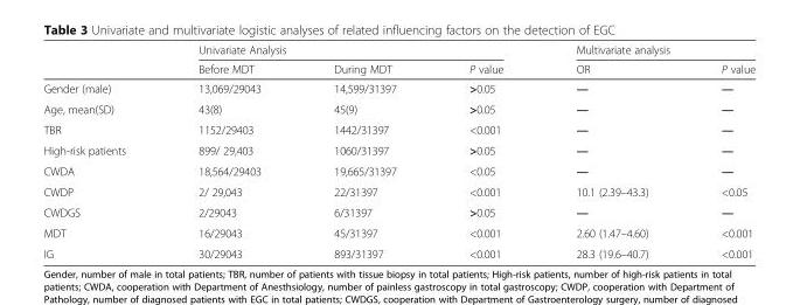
<table><thead><tr><td rowspan="2"></td><td colspan="3">Univariate Analysis</td><td colspan="2">Multivariate analysis</td></tr><tr><td>Before MDT</td><td>During MDT</td><td>P value</td><td>OR</td><td>P value</td></tr></thead><tbody><tr><td>Gender (male)</td><td>13,069/29043</td><td>14,599/31397</td><td>&gt;0.05</td><td>—</td><td>—</td></tr><tr><td>Age, mean(SD)</td><td>43(8)</td><td>45(9)</td><td>&gt;0.05</td><td>—</td><td>—</td></tr><tr><td>TBR</td><td>1152/29403</td><td>1442/31397</td><td>&lt;0.001</td><td>—</td><td>—</td></tr><tr><td>High-risk patients</td><td>899/ 29,403</td><td>1060/31397</td><td>&gt;0.05</td><td>—</td><td>—</td></tr><tr><td>CWDA</td><td>18,564/29403</td><td>19,665/31397</td><td>&lt;0.05</td><td>—</td><td>—</td></tr><tr><td>CWDP</td><td>2/ 29,043</td><td>22/31397</td><td>&lt;0.001</td><td>10.1 (2.39–43.3)</td><td>&lt;0.05</td></tr><tr><td>CWDGS</td><td>2/29043</td><td>6/31397</td><td>&gt;0.05</td><td>—</td><td>—</td></tr><tr><td>MDT</td><td>16/29043</td><td>45/31397</td><td>&lt;0.001</td><td>2.60 (1.47–4.60)</td><td>&lt;0.001</td></tr><tr><td>IG</td><td>30/29043</td><td>893/31397</td><td>&lt;0.001</td><td>28.3 (19.6–40.7)</td><td>&lt;0.001</td></tr></tbody></table>